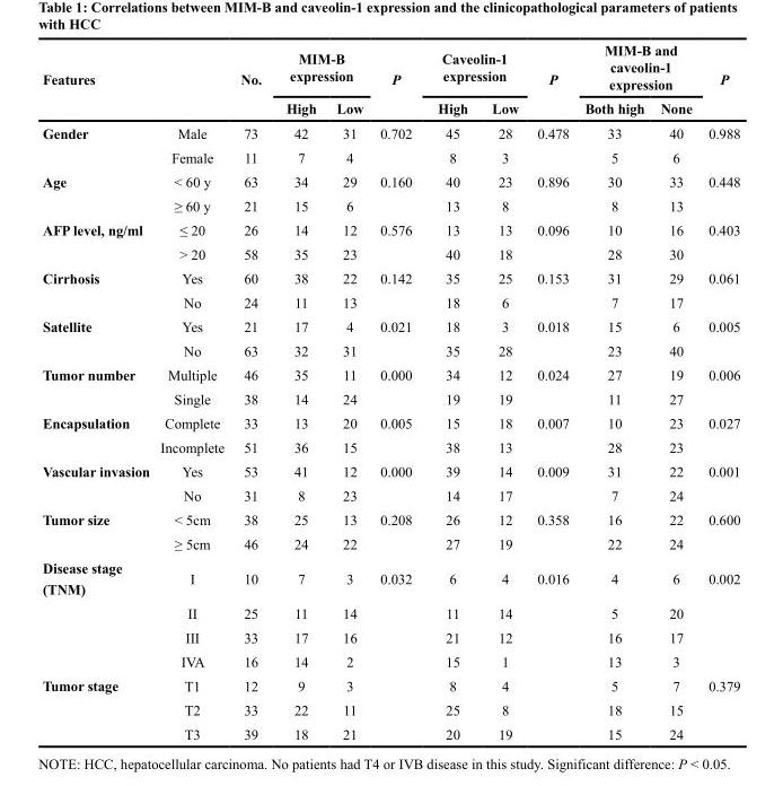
<table><thead><tr><td rowspan="2">Features</td><td rowspan="2"></td><td rowspan="2">No.</td><td colspan="2">MIM-B expression</td><td rowspan="2">P</td><td colspan="2">Caveolin-1 expression</td><td rowspan="2">P</td><td colspan="2">MIM-B and caveolin-1 expression</td><td rowspan="2">P</td></tr><tr><td>High</td><td>Low</td><td>High</td><td>Low</td><td>Both high</td><td>None</td></tr></thead><tbody><tr><td rowspan="2">Gender</td><td>Male</td><td>73</td><td>42</td><td>31</td><td>0.702</td><td>45</td><td>28</td><td>0.478</td><td>33</td><td>40</td><td>0.988</td></tr><tr><td>Female</td><td>11</td><td>7</td><td>4</td><td></td><td>8</td><td>3</td><td></td><td>5</td><td>6</td><td></td></tr><tr><td rowspan="2">Age</td><td>&lt; 60 y</td><td>63</td><td>34</td><td>29</td><td>0.160</td><td>40</td><td>23</td><td>0.896</td><td>30</td><td>33</td><td>0.448</td></tr><tr><td>≥ 60 y</td><td>21</td><td>15</td><td>6</td><td></td><td>13</td><td>8</td><td></td><td>8</td><td>13</td><td></td></tr><tr><td rowspan="2">AFP level, ng/ml</td><td>≤ 20</td><td>26</td><td>14</td><td>12</td><td>0.576</td><td>13</td><td>13</td><td>0.096</td><td>10</td><td>16</td><td>0.403</td></tr><tr><td>&gt; 20</td><td>58</td><td>35</td><td>23</td><td></td><td>40</td><td>18</td><td></td><td>28</td><td>30</td><td></td></tr><tr><td rowspan="2">Cirrhosis</td><td>Yes</td><td>60</td><td>38</td><td>22</td><td>0.142</td><td>35</td><td>25</td><td>0.153</td><td>31</td><td>29</td><td>0.061</td></tr><tr><td>No</td><td>24</td><td>11</td><td>13</td><td></td><td>18</td><td>6</td><td></td><td>7</td><td>17</td><td></td></tr><tr><td rowspan="2">Satellite</td><td>Yes</td><td>21</td><td>17</td><td>4</td><td>0.021</td><td>18</td><td>3</td><td>0.018</td><td>15</td><td>6</td><td>0.005</td></tr><tr><td>No</td><td>63</td><td>32</td><td>31</td><td></td><td>35</td><td>28</td><td></td><td>23</td><td>40</td><td></td></tr><tr><td rowspan="2">Tumor number</td><td>Multiple</td><td>46</td><td>35</td><td>11</td><td>0.000</td><td>34</td><td>12</td><td>0.024</td><td>27</td><td>19</td><td>0.006</td></tr><tr><td>Single</td><td>38</td><td>14</td><td>24</td><td></td><td>19</td><td>19</td><td></td><td>11</td><td>27</td><td></td></tr><tr><td rowspan="2">Encapsulation</td><td>Complete</td><td>33</td><td>13</td><td>20</td><td>0.005</td><td>15</td><td>18</td><td>0.007</td><td>10</td><td>23</td><td>0.027</td></tr><tr><td>Incomplete</td><td>51</td><td>36</td><td>15</td><td></td><td>38</td><td>13</td><td></td><td>28</td><td>23</td><td></td></tr><tr><td rowspan="2">Vascular invasion</td><td>Yes</td><td>53</td><td>41</td><td>12</td><td>0.000</td><td>39</td><td>14</td><td>0.009</td><td>31</td><td>22</td><td>0.001</td></tr><tr><td>No</td><td>31</td><td>8</td><td>23</td><td></td><td>14</td><td>17</td><td></td><td>7</td><td>24</td><td></td></tr><tr><td rowspan="2">Tumor size</td><td>&lt; 5cm</td><td>38</td><td>25</td><td>13</td><td>0.208</td><td>26</td><td>12</td><td>0.358</td><td>16</td><td>22</td><td>0.600</td></tr><tr><td>≥ 5cm</td><td>46</td><td>24</td><td>22</td><td></td><td>27</td><td>19</td><td></td><td>22</td><td>24</td><td></td></tr><tr><td rowspan="4">Disease stage (TNM)</td><td>I</td><td>10</td><td>7</td><td>3</td><td>0.032</td><td>6</td><td>4</td><td>0.016</td><td>4</td><td>6</td><td>0.002</td></tr><tr><td>II</td><td>25</td><td>11</td><td>14</td><td></td><td>11</td><td>14</td><td></td><td>5</td><td>20</td><td></td></tr><tr><td>III</td><td>33</td><td>17</td><td>16</td><td></td><td>21</td><td>12</td><td></td><td>16</td><td>17</td><td></td></tr><tr><td>IVA</td><td>16</td><td>14</td><td>2</td><td></td><td>15</td><td>1</td><td></td><td>13</td><td>3</td><td></td></tr><tr><td rowspan="3">Tumor stage</td><td>T1</td><td>12</td><td>9</td><td>3</td><td></td><td>8</td><td>4</td><td></td><td>5</td><td>7</td><td>0.379</td></tr><tr><td>T2</td><td>33</td><td>22</td><td>11</td><td></td><td>25</td><td>8</td><td></td><td>18</td><td>15</td><td></td></tr><tr><td>T3</td><td>39</td><td>18</td><td>21</td><td></td><td>20</td><td>19</td><td></td><td>15</td><td>24</td><td></td></tr></tbody></table>